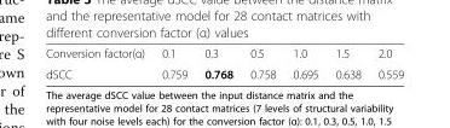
<table><tbody><tr><td>Conversion factor(α)</td><td>0.1</td><td>0.3</td><td>0.5</td><td>1.0</td><td>1.5</td><td>2.0</td></tr><tr><td>dSCC</td><td>0.759</td><td>0.768</td><td>0.758</td><td>0.695</td><td>0.638</td><td>0.559</td></tr></tbody></table>